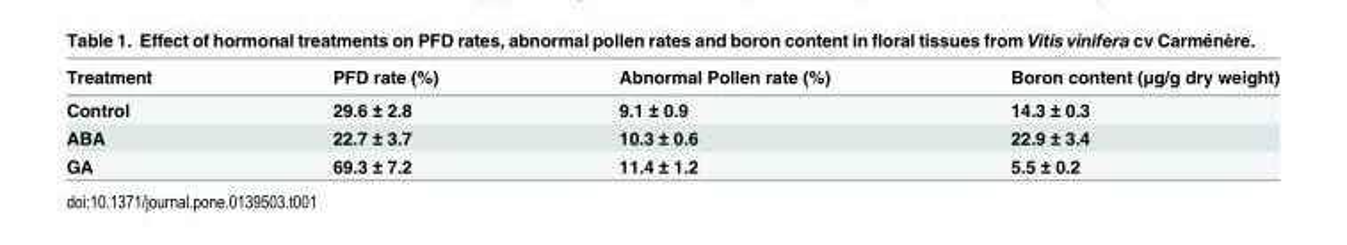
<table><thead><tr><td>Treatment</td><td>PFD rate (%)</td><td>Abnormal Pollen rate (%)</td><td>Boron content (μg/g dry weight)</td></tr></thead><tbody><tr><td>Control</td><td>29.6 ± 2.8</td><td>9.1 ± 0.9</td><td>14.3 ± 0.3</td></tr><tr><td>ABA</td><td>22.7 ± 3.7</td><td>10.3 ± 0.6</td><td>22.9 ± 3.4</td></tr><tr><td>GA</td><td>69.3 ± 7.2</td><td>11.4 ± 1.2</td><td>5.5 ± 0.2</td></tr></tbody></table>